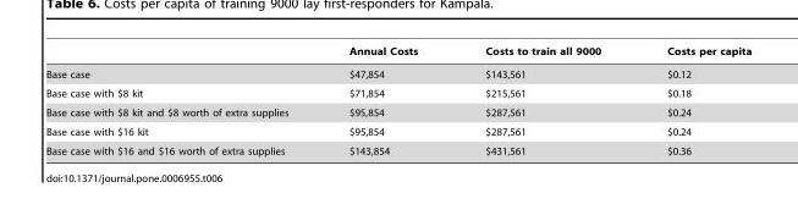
<table><thead><tr><td></td><td>Annual Costs</td><td>Costs to train all 9000</td><td>Costs per capita</td></tr></thead><tbody><tr><td>Base case</td><td>$47,854</td><td>$143,561</td><td>$0.12</td></tr><tr><td>Base case with $8 kit</td><td>$71,854</td><td>$215,561</td><td>$0.18</td></tr><tr><td>Base case with $8 kit and $8 worth of extra supplies</td><td>$95,854</td><td>$287,561</td><td>$0.24</td></tr><tr><td>Base case with $16 kit</td><td>$95,854</td><td>$287,561</td><td>$0.24</td></tr><tr><td>Base case with $16 and $16 worth of extra supplies</td><td>$143,854</td><td>$431,561</td><td>$0.36</td></tr></tbody></table>